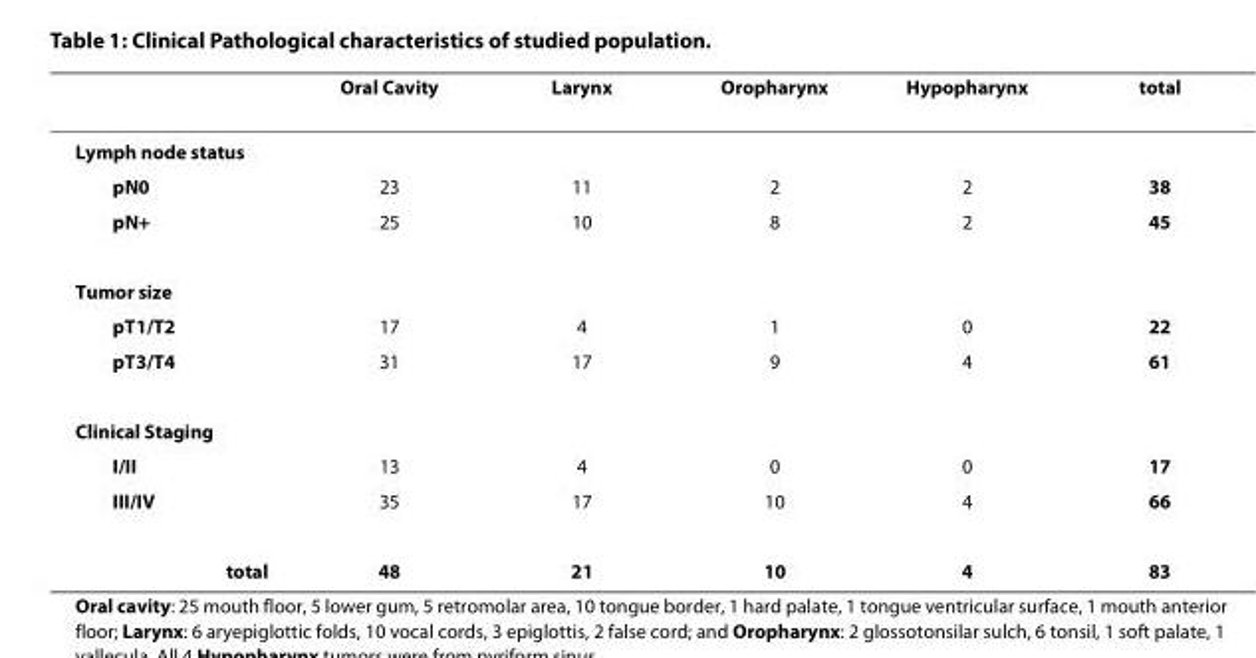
<table><thead><tr><td></td><td>Oral Cavity</td><td>Larynx</td><td>Oropharynx</td><td>Hypopharynx</td><td>total</td></tr></thead><tbody><tr><td colspan="6">Lymph node status</td></tr><tr><td>pN0</td><td>23</td><td>11</td><td>2</td><td>2</td><td>38</td></tr><tr><td>pN+</td><td>25</td><td>10</td><td>8</td><td>2</td><td>45</td></tr><tr><td colspan="6">Tumor size</td></tr><tr><td>pT1/T2</td><td>17</td><td>4</td><td>1</td><td>0</td><td>22</td></tr><tr><td>pT3/T4</td><td>31</td><td>17</td><td>9</td><td>4</td><td>61</td></tr><tr><td colspan="6">Clinical Staging</td></tr><tr><td>I/II</td><td>13</td><td>4</td><td>0</td><td>0</td><td>17</td></tr><tr><td>III/IV</td><td>35</td><td>17</td><td>10</td><td>4</td><td>66</td></tr><tr><td>total</td><td>48</td><td>21</td><td>10</td><td>4</td><td>83</td></tr></tbody></table>